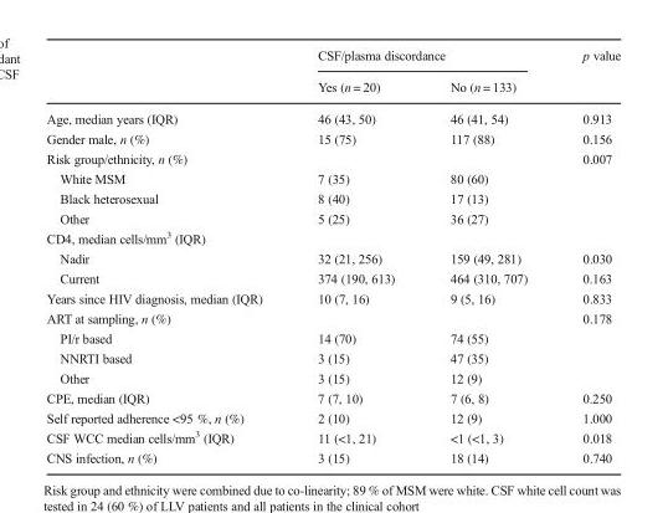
<table><thead><tr><td rowspan="2"></td><td colspan="2">CSF/plasma discordance</td><td rowspan="2">p value</td></tr><tr><td>Yes (n = 20)</td><td>No (n = 133)</td></tr></thead><tbody><tr><td>Age, median years (IQR)</td><td>46 (43, 50)</td><td>46 (41, 54)</td><td>0.913</td></tr><tr><td>Gender male, n (%)</td><td>15 (75)</td><td>117 (88)</td><td>0.156</td></tr><tr><td>Risk group/ethnicity, n (%)</td><td></td><td></td><td>0.007</td></tr><tr><td>White MSM</td><td>7 (35)</td><td>80 (60)</td><td></td></tr><tr><td>Black heterosexual</td><td>8 (40)</td><td>17 (13)</td><td></td></tr><tr><td>Other</td><td>5 (25)</td><td>36 (27)</td><td></td></tr><tr><td colspan="4">CD4, median cells/mm<sup>3</sup> (IQR)</td></tr><tr><td>Nadir</td><td>32 (21, 256)</td><td>159 (49, 281)</td><td>0.030</td></tr><tr><td>Current</td><td>374 (190, 613)</td><td>464 (310, 707)</td><td>0.163</td></tr><tr><td>Years since HIV diagnosis, median (IQR)</td><td>10 (7, 16)</td><td>9 (5, 16)</td><td>0.833</td></tr><tr><td>ART at sampling, n (%)</td><td></td><td></td><td>0.178</td></tr><tr><td>PI/r based</td><td>14 (70)</td><td>74 (55)</td><td></td></tr><tr><td>NNRTI based</td><td>3 (15)</td><td>47 (35)</td><td></td></tr><tr><td>Other</td><td>3 (15)</td><td>12 (9)</td><td></td></tr><tr><td>CPE, median (IQR)</td><td>7 (7, 10)</td><td>7 (6, 8)</td><td>0.250</td></tr><tr><td>Self reported adherence &lt;95 %, n (%)</td><td>2 (10)</td><td>12 (9)</td><td>1.000</td></tr><tr><td>CSF WCC median cells/mm<sup>3</sup> (IQR)</td><td>11 (&lt;1, 21)</td><td>&lt;1 (&lt;1, 3)</td><td>0.018</td></tr><tr><td>CNS infection, n (%)</td><td>3 (15)</td><td>18 (14)</td><td>0.740</td></tr></tbody></table>